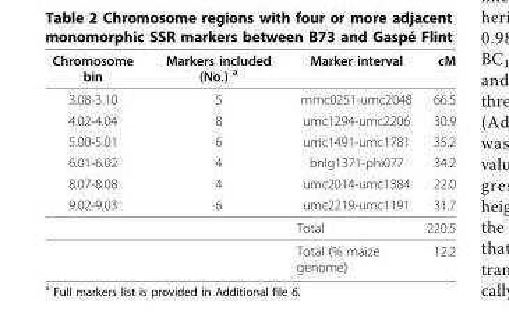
<table><thead><tr><td>Chromosome bin</td><td>Markers included (No.) <sup>a</sup></td><td>Marker interval</td><td>cM</td></tr></thead><tbody><tr><td>3.08-3.10</td><td>5</td><td>mmc0251-umc2048</td><td>66.5</td></tr><tr><td>4.02-4.04</td><td>8</td><td>umc1294-umc2206</td><td>30.9</td></tr><tr><td>5.00-5.01</td><td>6</td><td>umc1491-umc1781</td><td>35.2</td></tr><tr><td>6.01-6.02</td><td>4</td><td>bnlg1371-phi077</td><td>34.2</td></tr><tr><td>8.07-8.08</td><td>4</td><td>umc2014-umc1384</td><td>22.0</td></tr><tr><td rowspan="3">9.02-9.03</td><td>6</td><td>umc2219-umc1191</td><td>31.7</td></tr><tr><td></td><td>Total</td><td>220.5</td></tr><tr><td></td><td>Total (% maize genome)</td><td>12.2</td></tr></tbody></table>